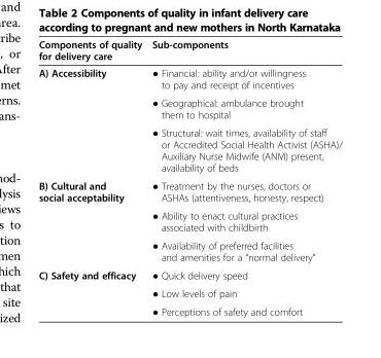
<table><thead><tr><td>Components of quality for delivery care</td><td>Sub-components</td></tr></thead><tbody><tr><td rowspan="3">A) Accessibility</td><td>● Financial: ability and/or willingness to pay and receipt of incentives</td></tr><tr><td>● Geographical: ambulance brought them to hospital</td></tr><tr><td>● Structural: wait times, availability of staff or Accredited Social Health Activist (ASHA)/ Auxiliary Nurse Midwife (ANM) present, availability of beds</td></tr><tr><td rowspan="3">B) Cultural and social acceptability</td><td>● Treatment by the nurses, doctors or ASHAs (attentiveness, honesty, respect)</td></tr><tr><td>● Ability to enact cultural practices associated with childbirth</td></tr><tr><td>● Availability of preferred facilities and amenities for a “normal delivery”</td></tr><tr><td rowspan="3">C) Safety and efficacy</td><td>● Quick delivery speed</td></tr><tr><td>● Low levels of pain</td></tr><tr><td>● Perceptions of safety and comfort</td></tr></tbody></table>